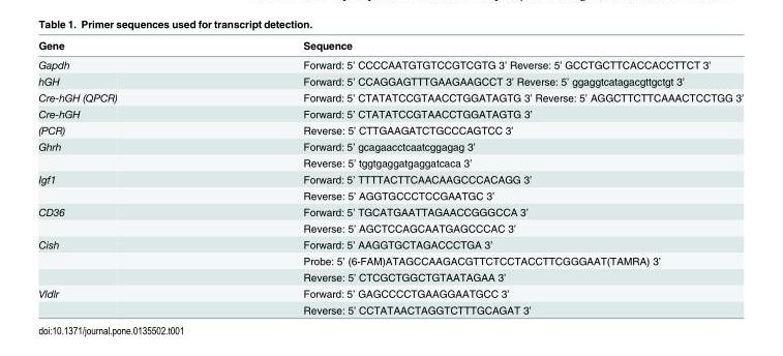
<table><thead><tr><td>Gene</td><td>Sequence</td></tr></thead><tbody><tr><td>Gapdh</td><td>Forward: 5’ CCCCAATGTGTCCGTCGTG 3’ Reverse: 5’ GCCTGCTTCACCACCTTCT 3’</td></tr><tr><td>hGH</td><td>Forward: 5’ CCAGGAGTTTGAAGAAGCCT 3’ Reverse: 5’ ggaggtcatagacgttgctgt 3’</td></tr><tr><td>Cre-hGH (QPCR)</td><td>Forward: 5’ CTATATCCGTAACCTGGATAGTG 3’ Reverse: 5’ AGGCTTCTTCAAACTCCTGG 3’</td></tr><tr><td>Cre-hGH</td><td>Forward: 5’ CTATATCCGTAACCTGGATAGTG 3’</td></tr><tr><td>(PCR)</td><td>Reverse: 5’ CTTGAAGATCTGCCCAGTCC 3’</td></tr><tr><td rowspan="2">Ghrh</td><td>Forward: 5’ gcagaacctcaatcggagag 3’</td></tr><tr><td>Reverse: 5’ tggtgaggatgaggatcaca 3’</td></tr><tr><td rowspan="2">Igf1</td><td>Forward: 5’ TTTTACTTCAACAAGCCCACAGG 3’</td></tr><tr><td>Reverse: 5’ AGGTGCCCTCCGAATGC 3’</td></tr><tr><td rowspan="2">CD36</td><td>Forward: 5’ TGCATGAATTAGAACCGGGCCA 3’</td></tr><tr><td>Reverse: 5’ AGCTCCAGCAATGAGCCCAC 3’</td></tr><tr><td rowspan="3">Cish</td><td>Forward: 5’ AAGGTGCTAGACCCTGA 3’</td></tr><tr><td>Probe: 5’ (6-FAM)ATAGCCAAGACGTTCTCCTACCTTCGGGAAT(TAMRA) 3’</td></tr><tr><td>Reverse: 5’ CTCGCTGGCTGTAATAGAA 3’</td></tr><tr><td rowspan="2">Vldlr</td><td>Forward: 5’ GAGCCCCTGAAGGAATGCC 3’</td></tr><tr><td>Reverse: 5’ CCTATAACTAGGTCTTTGCAGAT 3’</td></tr></tbody></table>